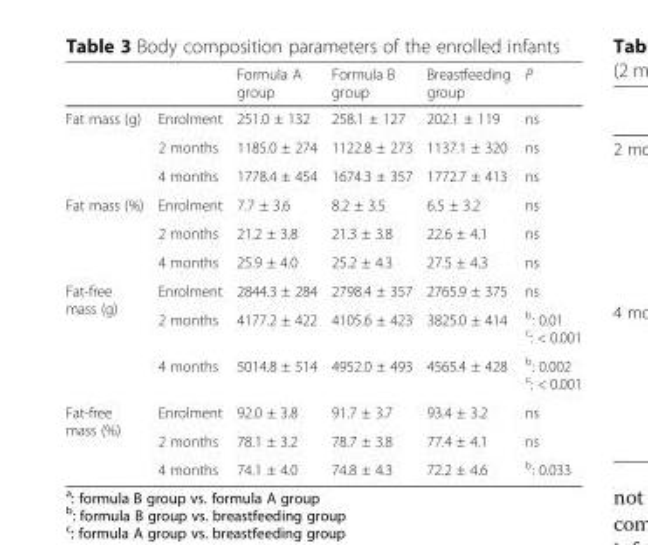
<table><thead><tr><td></td><td></td><td>Formula A group</td><td>Formula B group</td><td>Breastfeeding group</td><td>P</td></tr></thead><tbody><tr><td rowspan="3">Fat mass (g)</td><td>Enrolment</td><td>251.0 ± 132</td><td>258.1 ± 127</td><td>202.1 ± 119</td><td>ns</td></tr><tr><td>2 months</td><td>1185.0 ± 274</td><td>1122.8 ± 273</td><td>1137.1 ± 320</td><td>ns</td></tr><tr><td>4 months</td><td>1778.4 ± 454</td><td>1674.3 ± 357</td><td>1772.7 ± 413</td><td>ns</td></tr><tr><td rowspan="3">Fat mass (%)</td><td>Enrolment</td><td>7.7 ± 3.6</td><td>8.2 ± 3.5</td><td>6.5 ± 3.2</td><td>ns</td></tr><tr><td>2 months</td><td>21.2 ± 3.8</td><td>21.3 ± 3.8</td><td>22.6 ± 4.1</td><td>ns</td></tr><tr><td>4 months</td><td>25.9 ± 4.0</td><td>25.2 ± 4.3</td><td>27.5 ± 4.3</td><td>ns</td></tr><tr><td rowspan="3">Fat-free mass (g)</td><td>Enrolment</td><td>2844.3 ± 284</td><td>2798.4 ± 357</td><td>2765.9 ± 375</td><td>ns</td></tr><tr><td>2 months</td><td>4177.2 ± 422</td><td>4105.6 ± 423</td><td>3825.0 ± 414</td><td><sup>b</sup>: 0.01 <sup>c</sup>: &lt; 0.001</td></tr><tr><td>4 months</td><td>5014.8 ± 514</td><td>4952.0 ± 493</td><td>4565.4 ± 428</td><td><sup>b</sup>: 0.002 <sup>c</sup>: &lt; 0.001</td></tr><tr><td rowspan="3">Fat-free mass (%)</td><td>Enrolment</td><td>92.0 ± 3.8</td><td>91.7 ± 3.7</td><td>93.4 ± 3.2</td><td>ns</td></tr><tr><td>2 months</td><td>78.1 ± 3.2</td><td>78.7 ± 3.8</td><td>77.4 ± 4.1</td><td>ns</td></tr><tr><td>4 months</td><td>74.1 ± 4.0</td><td>74.8 ± 4.3</td><td>72.2 ± 4.6</td><td><sup>b</sup>: 0.033</td></tr></tbody></table>